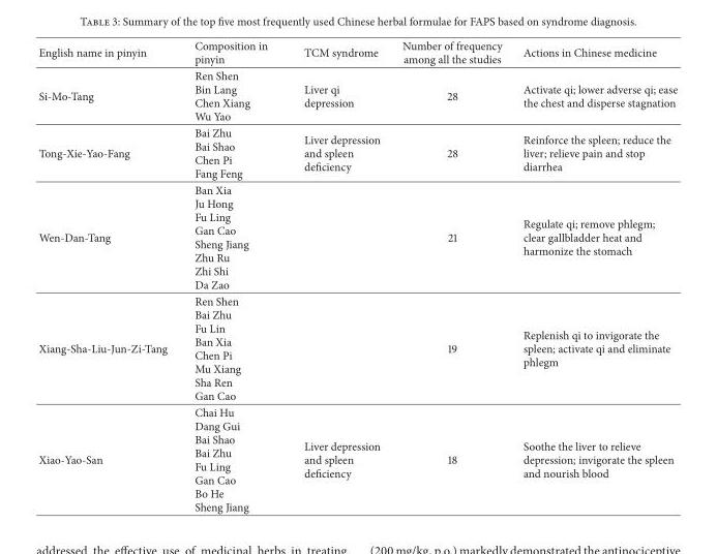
<table><thead><tr><td>English name in pinyin</td><td>Composition in pinyin</td><td>TCM syndrome</td><td>Number of frequency among all the studies</td><td>Actions in Chinese medicine</td></tr></thead><tbody><tr><td>Si-Mo-Tang</td><td>Ren Shen Bin Lang Chen Xiang Wu Yao</td><td>Liver qi depression</td><td>28</td><td>Activate qi; lower adverse qi; ease the chest and disperse stagnation</td></tr><tr><td>Tong-Xie-Yao-Fang</td><td>Bai Zhu Bai Shao Chen Pi Fang Feng</td><td>Liver depression and spleen deficiency</td><td>28</td><td>Reinforce the spleen; reduce the liver; relieve pain and stop diarrhea</td></tr><tr><td>Wen-Dan-Tang</td><td>Ban Xia Ju Hong Fu Ling Gan Cao Sheng Jiang Zhu Ru Zhi Shi Da Zao</td><td></td><td>21</td><td>Regulate qi; remove phlegm; clear gallbladder heat and harmonize the stomach</td></tr><tr><td>Xiang-Sha-Liu-Jun-Zi-Tang</td><td>Ren Shen Bai Zhu Fu Lin Ban Xia Chen Pi Mu Xiang Sha Ren Gan Cao</td><td></td><td>19</td><td>Replenish qi to invigorate the spleen; activate qi and eliminate phlegm</td></tr><tr><td>Xiao-Yao-San</td><td>Chai Hu Dang Gui Bai Shao Bai Zhu Fu Ling Gan Cao Bo He Sheng Jiang</td><td>Liver depression and spleen deficiency</td><td>18</td><td>Soothe the liver to relieve depression; invigorate the spleen and nourish blood</td></tr></tbody></table>